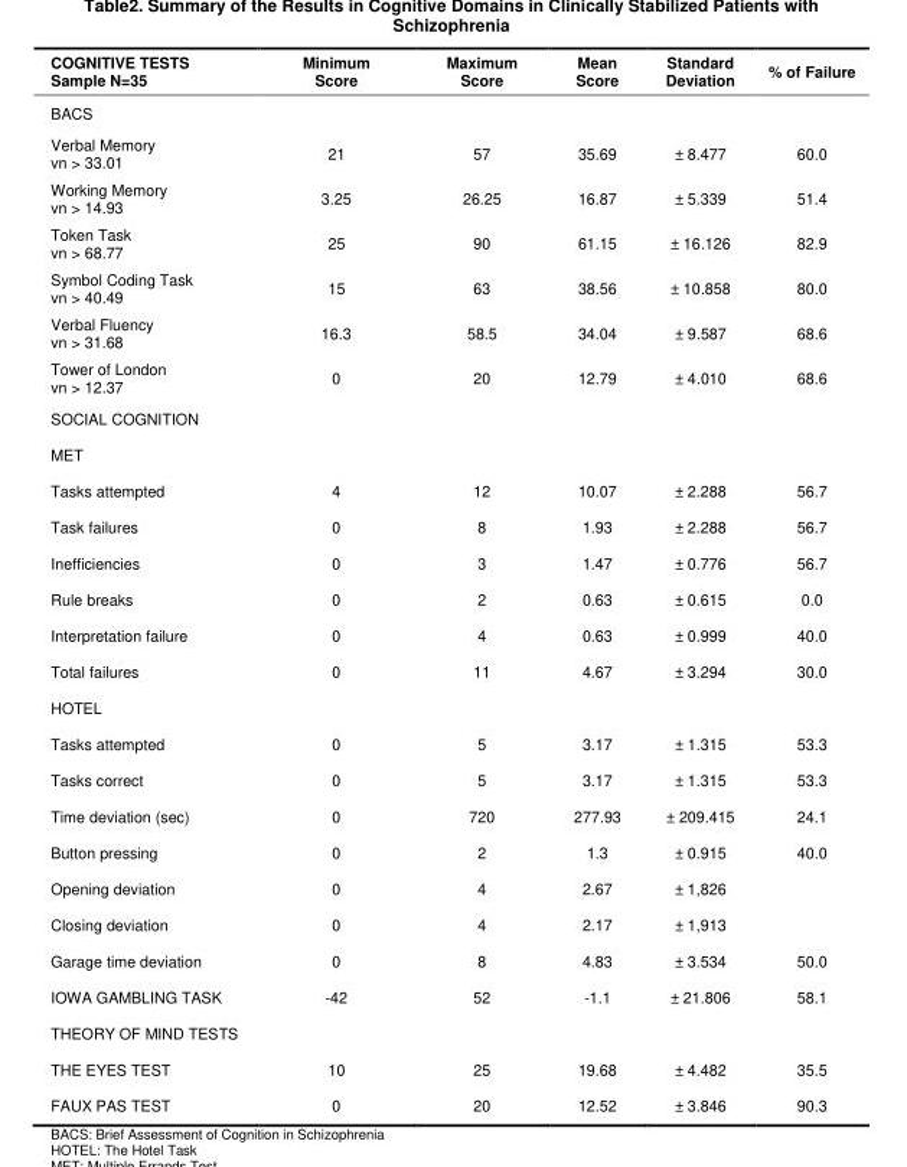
<table><thead><tr><td>COGNITIVE TESTS Sample N=35</td><td>Minimum Score</td><td>Maximum Score</td><td>Mean Score</td><td>Standard Deviation</td><td>% of Failure</td></tr></thead><tbody><tr><td colspan="6">BACS</td></tr><tr><td>Verbal Memory vn &gt; 33.01</td><td>21</td><td>57</td><td>35.69</td><td>± 8.477</td><td>60.0</td></tr><tr><td>Working Memory vn &gt; 14.93</td><td>3.25</td><td>26.25</td><td>16.87</td><td>± 5.339</td><td>51.4</td></tr><tr><td>Token Task vn &gt; 68.77</td><td>25</td><td>90</td><td>61.15</td><td>± 16.126</td><td>82.9</td></tr><tr><td>Symbol Coding Task vn &gt; 40.49</td><td>15</td><td>63</td><td>38.56</td><td>± 10.858</td><td>80.0</td></tr><tr><td>Verbal Fluency vn &gt; 31.68</td><td>16.3</td><td>58.5</td><td>34.04</td><td>± 9.587</td><td>68.6</td></tr><tr><td>Tower of London vn &gt; 12.37</td><td>0</td><td>20</td><td>12.79</td><td>± 4.010</td><td>68.6</td></tr><tr><td colspan="6">SOCIAL COGNITION</td></tr><tr><td colspan="6">MET</td></tr><tr><td>Tasks attempted</td><td>4</td><td>12</td><td>10.07</td><td>± 2.288</td><td>56.7</td></tr><tr><td>Task failures</td><td>0</td><td>8</td><td>1.93</td><td>± 2.288</td><td>56.7</td></tr><tr><td>Inefficiencies</td><td>0</td><td>3</td><td>1.47</td><td>± 0.776</td><td>56.7</td></tr><tr><td>Rule breaks</td><td>0</td><td>2</td><td>0.63</td><td>± 0.615</td><td>0.0</td></tr><tr><td>Interpretation failure</td><td>0</td><td>4</td><td>0.63</td><td>± 0.999</td><td>40.0</td></tr><tr><td>Total failures</td><td>0</td><td>11</td><td>4.67</td><td>± 3.294</td><td>30.0</td></tr><tr><td colspan="6">HOTEL</td></tr><tr><td>Tasks attempted</td><td>0</td><td>5</td><td>3.17</td><td>± 1.315</td><td>53.3</td></tr><tr><td>Tasks correct</td><td>0</td><td>5</td><td>3.17</td><td>± 1.315</td><td>53.3</td></tr><tr><td>Time deviation (sec)</td><td>0</td><td>720</td><td>277.93</td><td>± 209.415</td><td>24.1</td></tr><tr><td>Button pressing</td><td>0</td><td>2</td><td>1.3</td><td>± 0.915</td><td>40.0</td></tr><tr><td>Opening deviation</td><td>0</td><td>4</td><td>2.67</td><td>± 1,826</td><td></td></tr><tr><td>Closing deviation</td><td>0</td><td>4</td><td>2.17</td><td>± 1,913</td><td></td></tr><tr><td>Garage time deviation</td><td>0</td><td>8</td><td>4.83</td><td>± 3.534</td><td>50.0</td></tr><tr><td>IOWA GAMBLING TASK</td><td>-42</td><td>52</td><td>-1.1</td><td>± 21.806</td><td>58.1</td></tr><tr><td colspan="6">THEORY OF MIND TESTS</td></tr><tr><td>THE EYES TEST</td><td>10</td><td>25</td><td>19.68</td><td>± 4.482</td><td>35.5</td></tr><tr><td>FAUX PAS TEST</td><td>0</td><td>20</td><td>12.52</td><td>± 3.846</td><td>90.3</td></tr></tbody></table>